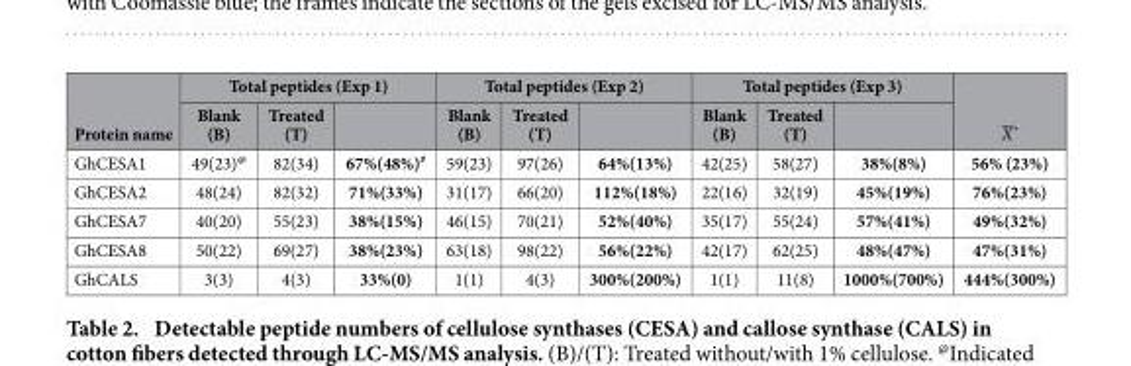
<table><thead><tr><td rowspan="2">Protein name</td><td colspan="3">Total peptides (Exp 1)</td><td colspan="3">Total peptides (Exp 2)</td><td colspan="3">Total peptides (Exp 3)</td><td rowspan="2">X*</td></tr><tr><td>Blank (B)</td><td>Treated (T)</td><td></td><td>Blank (B)</td><td>Treated (T)</td><td></td><td>Blank (B)</td><td>Treated (T)</td><td></td></tr></thead><tbody><tr><td>GhCESA1</td><td>49(23)@</td><td>82(34)</td><td>67%(48%)#</td><td>59(23)</td><td>97(26)</td><td>64%(13%)</td><td>42(25)</td><td>58(27)</td><td>38%(8%)</td><td>56% (23%)</td></tr><tr><td>GhCESA2</td><td>48(24)</td><td>82(32)</td><td>71%(33%)</td><td>31(17)</td><td>66(20)</td><td>112%(18%)</td><td>22(16)</td><td>32(19)</td><td>45%(19%)</td><td>76%(23%)</td></tr><tr><td>GhCESA7</td><td>40(20)</td><td>55(23)</td><td>38%(15%)</td><td>46(15)</td><td>70(21)</td><td>52%(40%)</td><td>35(17)</td><td>55(24)</td><td>57%(41%)</td><td>49%(32%)</td></tr><tr><td>GhCESA8</td><td>50(22)</td><td>69(27)</td><td>38%(23%)</td><td>63(18)</td><td>98(22)</td><td>56%(22%)</td><td>42(17)</td><td>62(25)</td><td>48%(47%)</td><td>47%(31%)</td></tr><tr><td>GhCALS</td><td>3(3)</td><td>4(3)</td><td>33%(0)</td><td>1(1)</td><td>4(3)</td><td>300%(200%)</td><td>1(1)</td><td>11(8)</td><td>1000%(700%)</td><td>444%(300%)</td></tr></tbody></table>